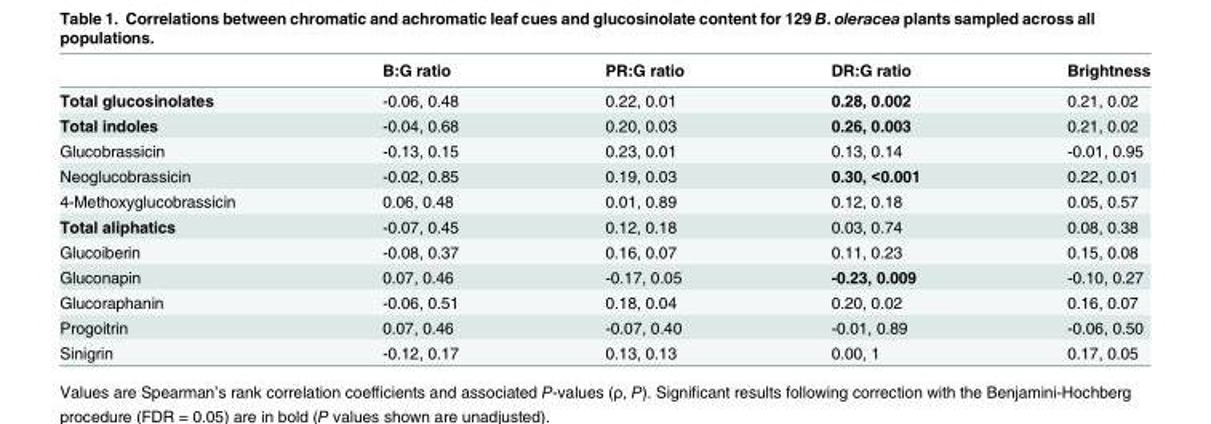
<table><thead><tr><td></td><td>B:G ratio</td><td>PR:G ratio</td><td>DR:G ratio</td><td>Brightness</td></tr></thead><tbody><tr><td>Total glucosinolates</td><td>-0.06, 0.48</td><td>0.22, 0.01</td><td>0.28, 0.002</td><td>0.21, 0.02</td></tr><tr><td>Total indoles</td><td>-0.04, 0.68</td><td>0.20, 0.03</td><td>0.26, 0.003</td><td>0.21, 0.02</td></tr><tr><td>Glucobrassicin</td><td>-0.13, 0.15</td><td>0.23, 0.01</td><td>0.13, 0.14</td><td>-0.01, 0.95</td></tr><tr><td>Neoglucobrassicin</td><td>-0.02, 0.85</td><td>0.19, 0.03</td><td>0.30, &lt;0.001</td><td>0.22, 0.01</td></tr><tr><td>4-Methoxyglucobrassicin</td><td>0.06, 0.48</td><td>0.01, 0.89</td><td>0.12, 0.18</td><td>0.05, 0.57</td></tr><tr><td>Total aliphatics</td><td>-0.07, 0.45</td><td>0.12, 0.18</td><td>0.03, 0.74</td><td>0.08, 0.38</td></tr><tr><td>Glucoiberin</td><td>-0.08, 0.37</td><td>0.16, 0.07</td><td>0.11, 0.23</td><td>0.15, 0.08</td></tr><tr><td>Gluconapin</td><td>0.07, 0.46</td><td>-0.17, 0.05</td><td>-0.23, 0.009</td><td>-0.10, 0.27</td></tr><tr><td>Glucoraphanin</td><td>-0.06, 0.51</td><td>0.18, 0.04</td><td>0.20, 0.02</td><td>0.16, 0.07</td></tr><tr><td>Progoitrin</td><td>0.07, 0.46</td><td>-0.07, 0.40</td><td>-0.01, 0.89</td><td>-0.06, 0.50</td></tr><tr><td>Sinigrin</td><td>-0.12, 0.17</td><td>0.13, 0.13</td><td>0.00, 1</td><td>0.17, 0.05</td></tr></tbody></table>